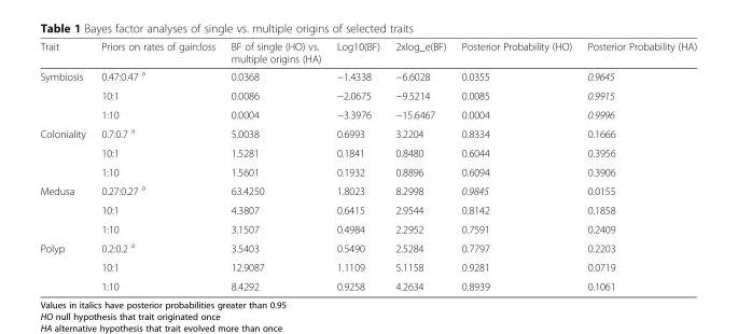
<table><thead><tr><td>Trait</td><td>Priors on rates of gain:loss</td><td>BF of single (HO) vs. multiple origins (HA)</td><td>Log10(BF)</td><td>2xlog_e(BF)</td><td>Posterior Probability (HO)</td><td>Posterior Probability (HA)</td></tr></thead><tbody><tr><td rowspan="3">Symbiosis</td><td>0.47:0.47 <sup>a</sup></td><td>0.0368</td><td>−1.4338</td><td>−6.6028</td><td>0.0355</td><td>0.9645</td></tr><tr><td>10:1</td><td>0.0086</td><td>−2.0675</td><td>−9.5214</td><td>0.0085</td><td>0.9915</td></tr><tr><td>1:10</td><td>0.0004</td><td>−3.3976</td><td>−15.6467</td><td>0.0004</td><td>0.9996</td></tr><tr><td rowspan="3">Coloniality</td><td>0.7:0.7 <sup>a</sup></td><td>5.0038</td><td>0.6993</td><td>3.2204</td><td>0.8334</td><td>0.1666</td></tr><tr><td>10:1</td><td>1.5281</td><td>0.1841</td><td>0.8480</td><td>0.6044</td><td>0.3956</td></tr><tr><td>1:10</td><td>1.5601</td><td>0.1932</td><td>0.8896</td><td>0.6094</td><td>0.3906</td></tr><tr><td rowspan="3">Medusa</td><td>0.27:0.27 <sup>a</sup></td><td>63.4250</td><td>1.8023</td><td>8.2998</td><td>0.9845</td><td>0.0155</td></tr><tr><td>10:1</td><td>4.3807</td><td>0.6415</td><td>2.9544</td><td>0.8142</td><td>0.1858</td></tr><tr><td>1:10</td><td>3.1507</td><td>0.4984</td><td>2.2952</td><td>0.7591</td><td>0.2409</td></tr><tr><td rowspan="3">Polyp</td><td>0.2:0.2 <sup>a</sup></td><td>3.5403</td><td>0.5490</td><td>2.5284</td><td>0.7797</td><td>0.2203</td></tr><tr><td>10:1</td><td>12.9087</td><td>1.1109</td><td>5.1158</td><td>0.9281</td><td>0.0719</td></tr><tr><td>1:10</td><td>8.4292</td><td>0.9258</td><td>4.2634</td><td>0.8939</td><td>0.1061</td></tr></tbody></table>